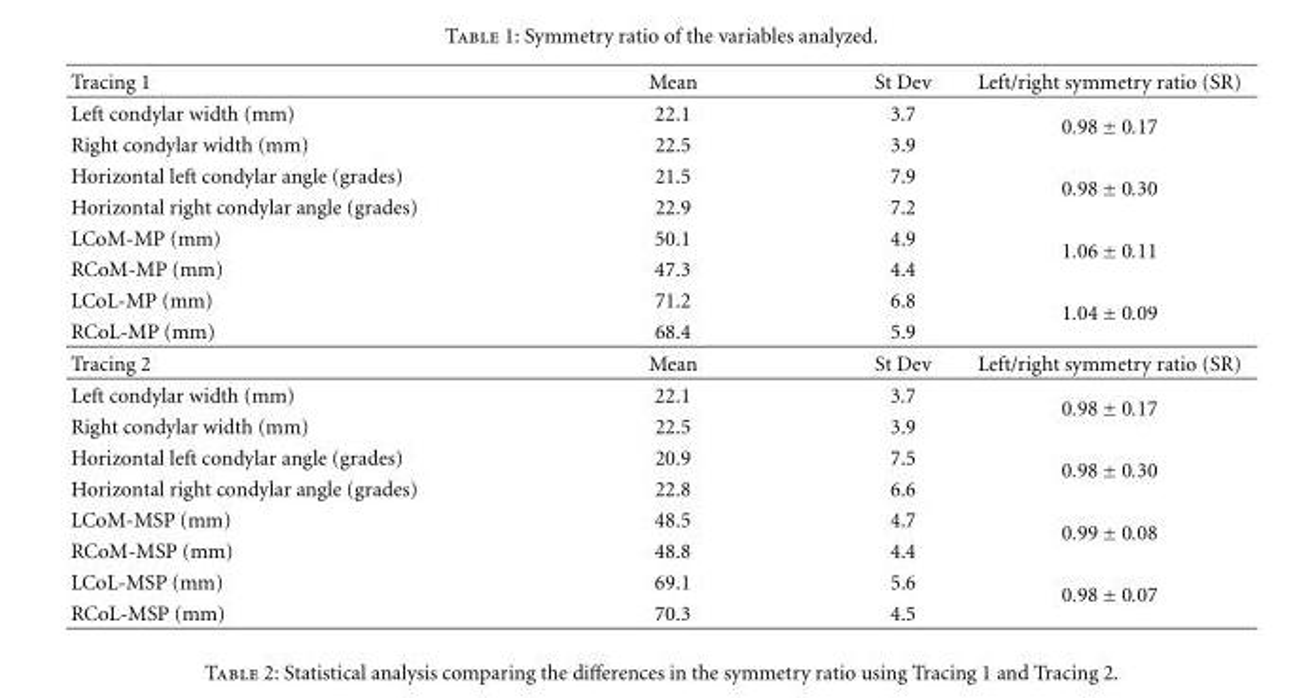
<table><thead><tr><td>Tracing 1</td><td>Mean</td><td>St Dev</td><td>Left/right symmetry ratio (SR)</td></tr></thead><tbody><tr><td>Left condylar width (mm)</td><td>22.1</td><td>3.7</td><td rowspan="2">0.98 ± 0.17</td></tr><tr><td>Right condylar width (mm)</td><td>22.5</td><td>3.9</td></tr><tr><td>Horizontal left condylar angle (grades)</td><td>21.5</td><td>7.9</td><td rowspan="2">0.98 ± 0.30</td></tr><tr><td>Horizontal right condylar angle (grades)</td><td>22.9</td><td>7.2</td></tr><tr><td>LCoM-MP (mm)</td><td>50.1</td><td>4.9</td><td rowspan="2">1.06 ± 0.11</td></tr><tr><td>RCoM-MP (mm)</td><td>47.3</td><td>4.4</td></tr><tr><td>LCoL-MP (mm)</td><td>71.2</td><td>6.8</td><td rowspan="2">1.04 ± 0.09</td></tr><tr><td>RCoL-MP (mm)</td><td>68.4</td><td>5.9</td></tr><tr><td>Tracing 2</td><td>Mean</td><td>St Dev</td><td>Left/right symmetry ratio (SR)</td></tr><tr><td>Left condylar width (mm)</td><td>22.1</td><td>3.7</td><td rowspan="2">0.98 ± 0.17</td></tr><tr><td>Right condylar width (mm)</td><td>22.5</td><td>3.9</td></tr><tr><td>Horizontal left condylar angle (grades)</td><td>20.9</td><td>7.5</td><td rowspan="2">0.98 ± 0.30</td></tr><tr><td>Horizontal right condylar angle (grades)</td><td>22.8</td><td>6.6</td></tr><tr><td>LCoM-MSP (mm)</td><td>48.5</td><td>4.7</td><td rowspan="2">0.99 ± 0.08</td></tr><tr><td>RCoM-MSP (mm)</td><td>48.8</td><td>4.4</td></tr><tr><td>LCoL-MSP (mm)</td><td>69.1</td><td>5.6</td><td rowspan="2">0.98 ± 0.07</td></tr><tr><td>RCoL-MSP (mm)</td><td>70.3</td><td>4.5</td></tr></tbody></table>